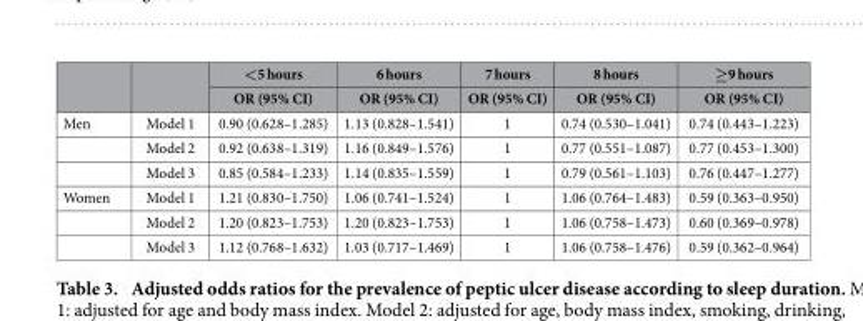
<table><thead><tr><td rowspan="2"></td><td rowspan="2"></td><td rowspan="2">&lt;5 hours OR (95% CI)</td><td rowspan="2">6 hours OR (95% CI)</td><td rowspan="2">7 hours OR (95% CI)</td><td rowspan="2">8 hours OR (95% CI)</td><td rowspan="2">≥9 hours OR (95% CI)</td></tr><tr></tr></thead><tbody><tr><td rowspan="3">Men</td><td>Model 1</td><td>0.90 (0.628–1.285)</td><td>1.13 (0.828–1.541)</td><td>1</td><td>0.74 (0.530–1.041)</td><td>0.74 (0.443–1.223)</td></tr><tr><td>Model 2</td><td>0.92 (0.638–1.319)</td><td>1.16 (0.849–1.576)</td><td>1</td><td>0.77 (0.551–1.087)</td><td>0.77 (0.453–1.300)</td></tr><tr><td>Model 3</td><td>0.85 (0.584–1.233)</td><td>1.14 (0.835–1.559)</td><td>1</td><td>0.79 (0.561–1.103)</td><td>0.76 (0.447–1.277)</td></tr><tr><td rowspan="3">Women</td><td>Model 1</td><td>1.21 (0.830–1.750)</td><td>1.06 (0.741–1.524)</td><td>1</td><td>1.06 (0.764–1.483)</td><td>0.59 (0.363–0.950)</td></tr><tr><td>Model 2</td><td>1.20 (0.823–1.753)</td><td>1.20 (0.823–1.753)</td><td>1</td><td>1.06 (0.758–1.473)</td><td>0.60 (0.369–0.978)</td></tr><tr><td>Model 3</td><td>1.12 (0.768–1.632)</td><td>1.03 (0.717–1.469)</td><td>1</td><td>1.06 (0.758–1.476)</td><td>0.59 (0.362–0.964)</td></tr></tbody></table>